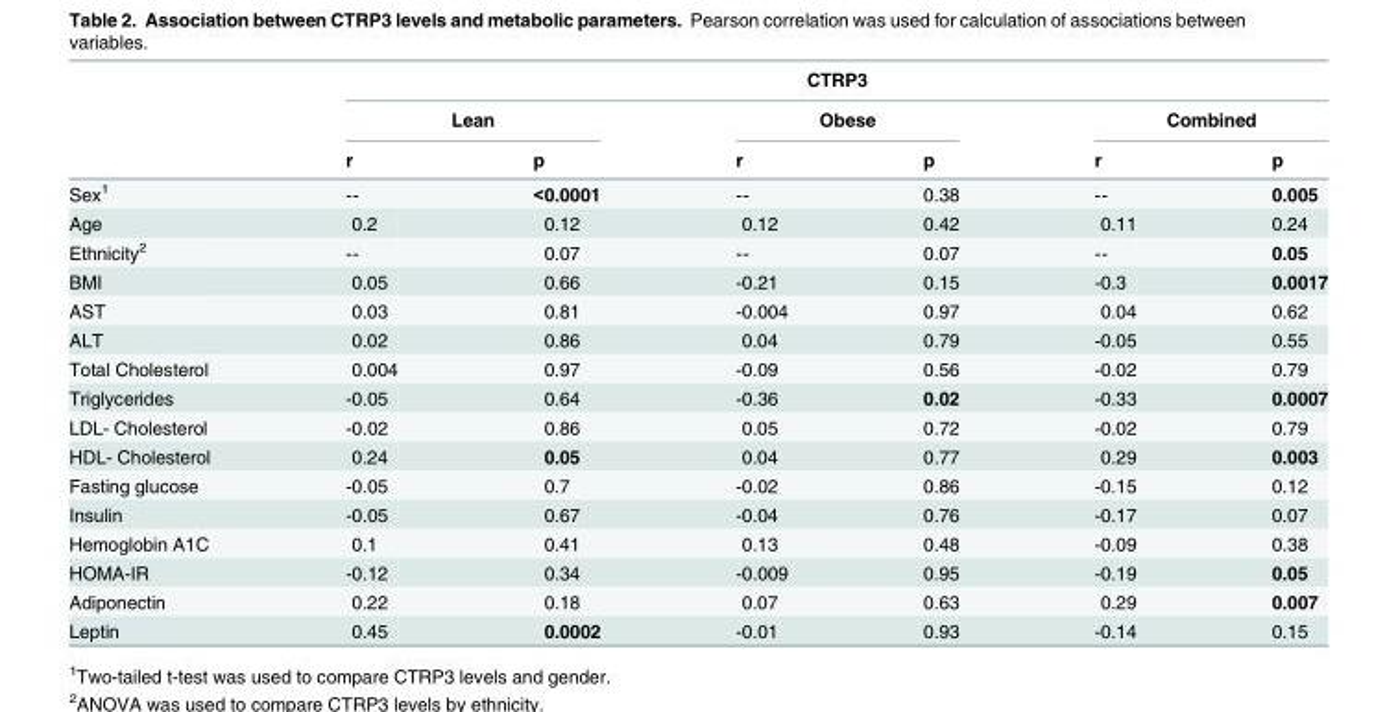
<table><thead><tr><td rowspan="3"></td><td colspan="6">CTRP3</td></tr><tr><td colspan="2">Lean</td><td colspan="2">Obese</td><td colspan="2">Combined</td></tr><tr><td>r</td><td>p</td><td>r</td><td>p</td><td>r</td><td>p</td></tr></thead><tbody><tr><td>Sex<sup>1</sup></td><td>--</td><td>&lt;0.0001</td><td>--</td><td>0.38</td><td>--</td><td>0.005</td></tr><tr><td>Age</td><td>0.2</td><td>0.12</td><td>0.12</td><td>0.42</td><td>0.11</td><td>0.24</td></tr><tr><td>Ethnicity<sup>2</sup></td><td>--</td><td>0.07</td><td>--</td><td>0.07</td><td>--</td><td>0.05</td></tr><tr><td>BMI</td><td>0.05</td><td>0.66</td><td>-0.21</td><td>0.15</td><td>-0.3</td><td>0.0017</td></tr><tr><td>AST</td><td>0.03</td><td>0.81</td><td>-0.004</td><td>0.97</td><td>0.04</td><td>0.62</td></tr><tr><td>ALT</td><td>0.02</td><td>0.86</td><td>0.04</td><td>0.79</td><td>-0.05</td><td>0.55</td></tr><tr><td>Total Cholesterol</td><td>0.004</td><td>0.97</td><td>-0.09</td><td>0.56</td><td>-0.02</td><td>0.79</td></tr><tr><td>Triglycerides</td><td>-0.05</td><td>0.64</td><td>-0.36</td><td>0.02</td><td>-0.33</td><td>0.0007</td></tr><tr><td>LDL- Cholesterol</td><td>-0.02</td><td>0.86</td><td>0.05</td><td>0.72</td><td>-0.02</td><td>0.79</td></tr><tr><td>HDL- Cholesterol</td><td>0.24</td><td>0.05</td><td>0.04</td><td>0.77</td><td>0.29</td><td>0.003</td></tr><tr><td>Fasting glucose</td><td>-0.05</td><td>0.7</td><td>-0.02</td><td>0.86</td><td>-0.15</td><td>0.12</td></tr><tr><td>Insulin</td><td>-0.05</td><td>0.67</td><td>-0.04</td><td>0.76</td><td>-0.17</td><td>0.07</td></tr><tr><td>Hemoglobin A1C</td><td>0.1</td><td>0.41</td><td>0.13</td><td>0.48</td><td>-0.09</td><td>0.38</td></tr><tr><td>HOMA-IR</td><td>-0.12</td><td>0.34</td><td>-0.009</td><td>0.95</td><td>-0.19</td><td>0.05</td></tr><tr><td>Adiponectin</td><td>0.22</td><td>0.18</td><td>0.07</td><td>0.63</td><td>0.29</td><td>0.007</td></tr><tr><td>Leptin</td><td>0.45</td><td>0.0002</td><td>-0.01</td><td>0.93</td><td>-0.14</td><td>0.15</td></tr></tbody></table>